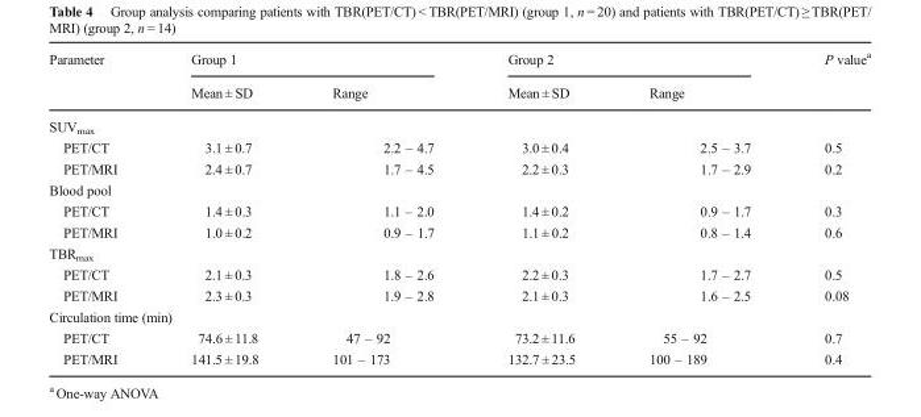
<table><thead><tr><td rowspan="2">Parameter</td><td colspan="2">Group 1</td><td colspan="2">Group 2</td><td rowspan="2">P value<sup>a</sup></td></tr><tr><td>Mean ± SD</td><td>Range</td><td>Mean ± SD</td><td>Range</td></tr></thead><tbody><tr><td colspan="6">SUV<sub>max</sub></td></tr><tr><td>PET/CT</td><td>3.1 ± 0.7</td><td>2.2 – 4.7</td><td>3.0 ± 0.4</td><td>2.5 – 3.7</td><td>0.5</td></tr><tr><td>PET/MRI</td><td>2.4 ± 0.7</td><td>1.7 – 4.5</td><td>2.2 ± 0.3</td><td>1.7 – 2.9</td><td>0.2</td></tr><tr><td colspan="6">Blood pool</td></tr><tr><td>PET/CT</td><td>1.4 ± 0.3</td><td>1.1 – 2.0</td><td>1.4 ± 0.2</td><td>0.9 – 1.7</td><td>0.3</td></tr><tr><td>PET/MRI</td><td>1.0 ± 0.2</td><td>0.9 – 1.7</td><td>1.1 ± 0.2</td><td>0.8 – 1.4</td><td>0.6</td></tr><tr><td colspan="6">TBR<sub>max</sub></td></tr><tr><td>PET/CT</td><td>2.1 ± 0.3</td><td>1.8 – 2.6</td><td>2.2 ± 0.3</td><td>1.7 – 2.7</td><td>0.5</td></tr><tr><td>PET/MRI</td><td>2.3 ± 0.3</td><td>1.9 – 2.8</td><td>2.1 ± 0.3</td><td>1.6 – 2.5</td><td>0.08</td></tr><tr><td colspan="6">Circulation time (min)</td></tr><tr><td>PET/CT</td><td>74.6 ± 11.8</td><td>47 – 92</td><td>73.2 ± 11.6</td><td>55 – 92</td><td>0.7</td></tr><tr><td>PET/MRI</td><td>141.5 ± 19.8</td><td>101 – 173</td><td>132.7 ± 23.5</td><td>100 – 189</td><td>0.4</td></tr></tbody></table>